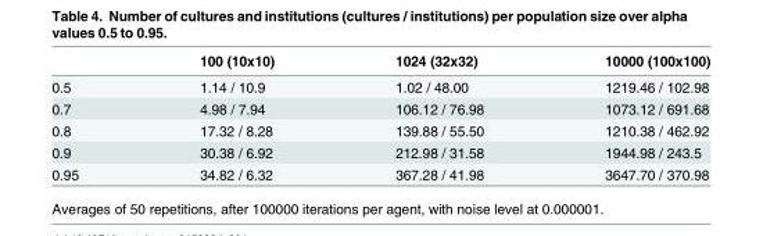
<table><thead><tr><td></td><td>100 (10x10)</td><td>1024 (32x32)</td><td>10000 (100x100)</td></tr></thead><tbody><tr><td>0.5</td><td>1.14 / 10.9</td><td>1.02 / 48.00</td><td>1219.46 / 102.98</td></tr><tr><td>0.7</td><td>4.98 / 7.94</td><td>106.12 / 76.98</td><td>1073.12 / 691.68</td></tr><tr><td>0.8</td><td>17.32 / 8.28</td><td>139.88 / 55.50</td><td>1210.38 / 462.92</td></tr><tr><td>0.9</td><td>30.38 / 6.92</td><td>212.98 / 31.58</td><td>1944.98 / 243.5</td></tr><tr><td>0.95</td><td>34.82 / 6.32</td><td>367.28 / 41.98</td><td>3647.70 / 370.98</td></tr></tbody></table>